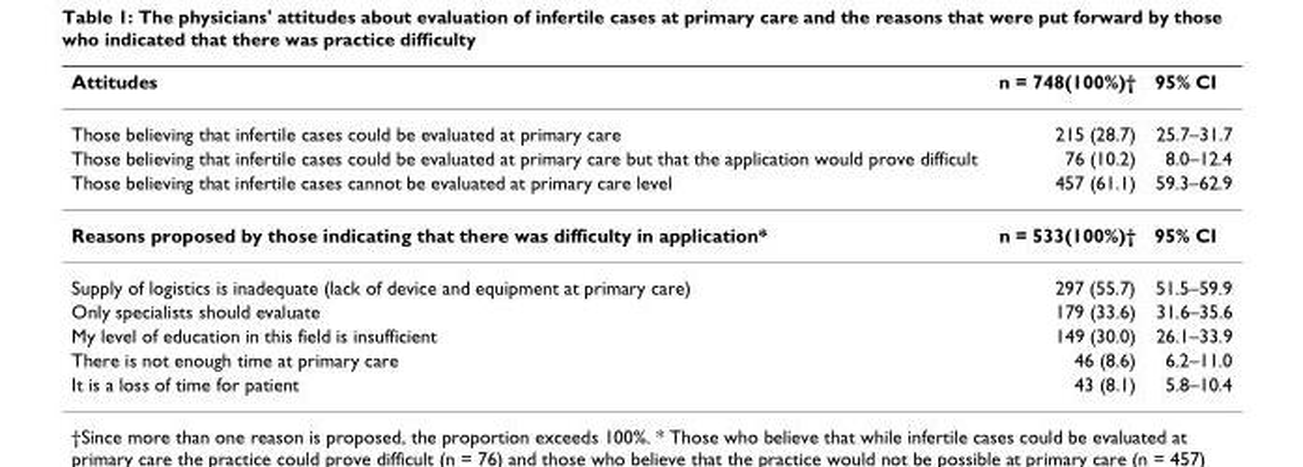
<table><thead><tr><td>Attitudes</td><td>n = 748(100%)†</td><td>95% CI</td></tr></thead><tbody><tr><td>Those believing that infertile cases could be evaluated at primary care</td><td>215 (28.7)</td><td>25.7–31.7</td></tr><tr><td>Those believing that infertile cases could be evaluated at primary care but that the application would prove difficult</td><td>76 (10.2)</td><td>8.0–12.4</td></tr><tr><td>Those believing that infertile cases cannot be evaluated at primary care level</td><td>457 (61.1)</td><td>59.3–62.9</td></tr><tr><td>Reasons proposed by those indicating that there was difficulty in application*</td><td>n = 533(100%)†</td><td>95% CI</td></tr><tr><td>Supply of logistics is inadequate (lack of device and equipment at primary care)</td><td>297 (55.7)</td><td>51.5–59.9</td></tr><tr><td>Only specialists should evaluate</td><td>179 (33.6)</td><td>31.6–35.6</td></tr><tr><td>My level of education in this field is insufficient</td><td>149 (30.0)</td><td>26.1–33.9</td></tr><tr><td>There is not enough time at primary care</td><td>46 (8.6)</td><td>6.2–11.0</td></tr><tr><td>It is a loss of time for patient</td><td>43 (8.1)</td><td>5.8–10.4</td></tr></tbody></table>